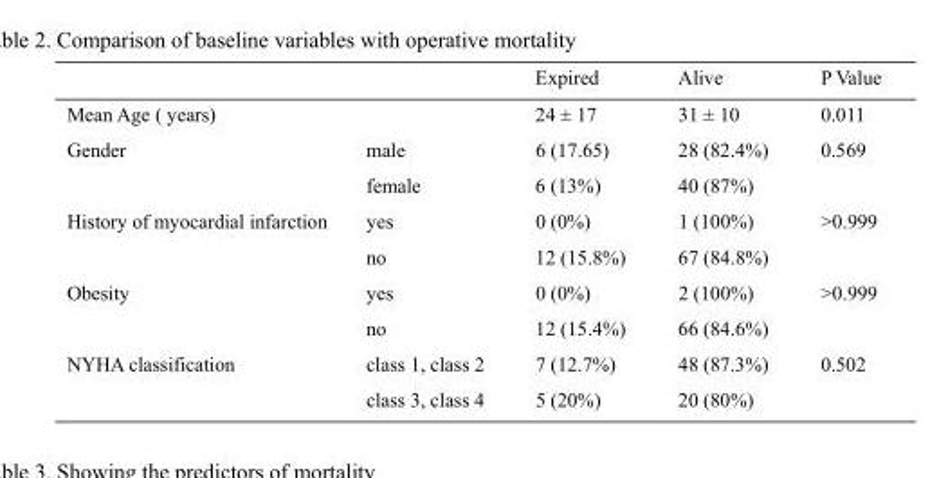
<table><thead><tr><td></td><td></td><td>Expired</td><td>Alive</td><td>P Value</td></tr></thead><tbody><tr><td colspan="2">Mean Age ( years)</td><td>24 ± 17</td><td>31 ± 10</td><td>0.011</td></tr><tr><td rowspan="2">Gender</td><td>male</td><td>6 (17.65)</td><td>28 (82.4%)</td><td rowspan="2">0.569</td></tr><tr><td>female</td><td>6 (13%)</td><td>40 (87%)</td></tr><tr><td rowspan="2">History of myocardial infarction</td><td>yes</td><td>0 (0%)</td><td>1 (100%)</td><td rowspan="2">&gt;0.999</td></tr><tr><td>no</td><td>12 (15.8%)</td><td>67 (84.8%)</td></tr><tr><td rowspan="2">Obesity</td><td>yes</td><td>0 (0%)</td><td>2 (100%)</td><td rowspan="2">&gt;0.999</td></tr><tr><td>no</td><td>12 (15.4%)</td><td>66 (84.6%)</td></tr><tr><td rowspan="2">NYHA classification</td><td>class 1, class 2</td><td>7 (12.7%)</td><td>48 (87.3%)</td><td rowspan="2">0.502</td></tr><tr><td>class 3, class 4</td><td>5 (20%)</td><td>20 (80%)</td></tr></tbody></table>